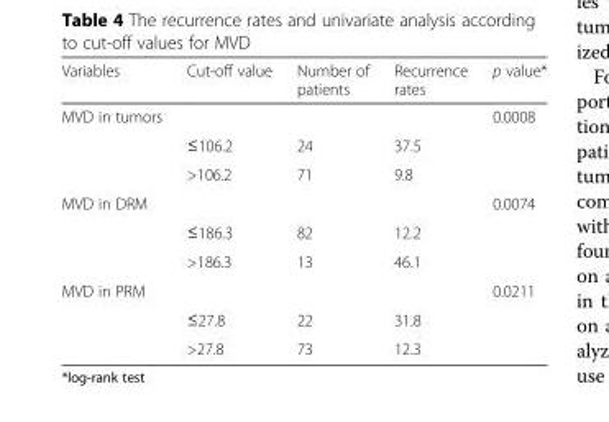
<table><thead><tr><td>Variables</td><td>Cut-off value</td><td>Number of patients</td><td>Recurrence rates</td><td>p value*</td></tr></thead><tbody><tr><td rowspan="3">MVD in tumors</td><td></td><td></td><td></td><td>0.0008</td></tr><tr><td>≤106.2</td><td>24</td><td>37.5</td><td></td></tr><tr><td>&gt;106.2</td><td>71</td><td>9.8</td><td></td></tr><tr><td rowspan="3">MVD in DRM</td><td></td><td></td><td></td><td>0.0074</td></tr><tr><td>≤186.3</td><td>82</td><td>12.2</td><td></td></tr><tr><td>&gt;186.3</td><td>13</td><td>46.1</td><td></td></tr><tr><td rowspan="3">MVD in PRM</td><td></td><td></td><td></td><td>0.0211</td></tr><tr><td>≤27.8</td><td>22</td><td>31.8</td><td></td></tr><tr><td>&gt;27.8</td><td>73</td><td>12.3</td><td></td></tr></tbody></table>